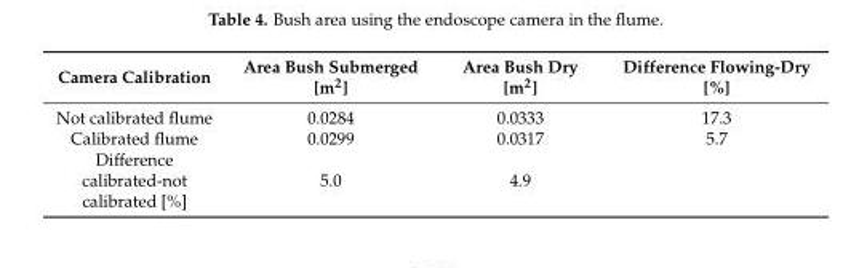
<table><thead><tr><td>Camera Calibration</td><td>Area Bush Submerged [m<sup>2</sup>]</td><td>Area Bush Dry [m<sup>2</sup>]</td><td>Difference Flowing-Dry [%]</td></tr></thead><tbody><tr><td>Not calibrated flume</td><td>0.0284</td><td>0.0333</td><td>17.3</td></tr><tr><td>Calibrated flume</td><td>0.0299</td><td>0.0317</td><td>5.7</td></tr><tr><td>Difference calibrated-not calibrated [%]</td><td>5.0</td><td>4.9</td><td></td></tr></tbody></table>